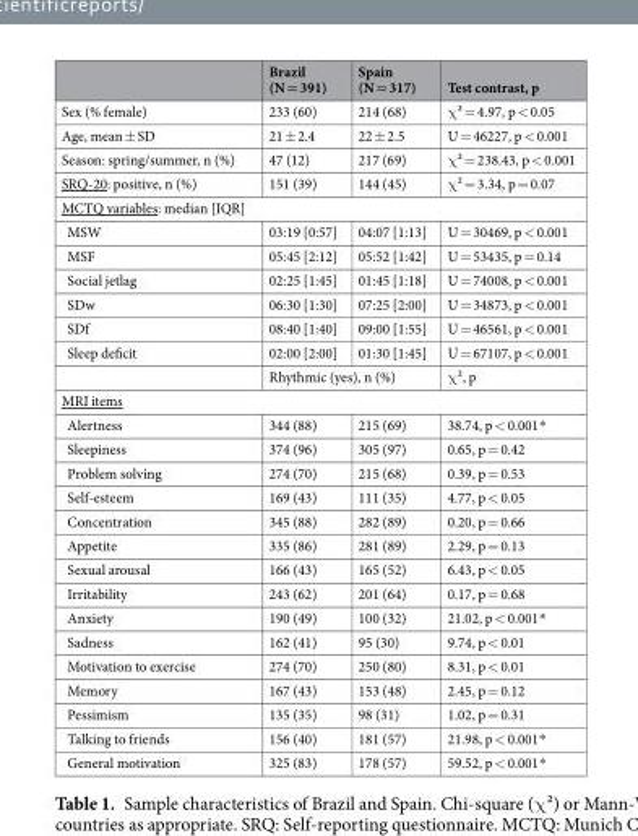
<table><thead><tr><td></td><td>Brazil (N = 391)</td><td>Spain (N = 317)</td><td>Test contrast, p</td></tr></thead><tbody><tr><td>Sex (% female)</td><td>233 (60)</td><td>214 (68)</td><td>χ² = 4.97, p &lt; 0.05</td></tr><tr><td>Age, mean ± SD</td><td>21 ± 2.4</td><td>22 ± 2.5</td><td>U = 46227, p &lt; 0.001</td></tr><tr><td>Season: spring/summer, n (%)</td><td>47 (12)</td><td>217 (69)</td><td>χ² = 238.43, p &lt; 0.001</td></tr><tr><td>SRQ-20: positive, n (%)</td><td>151 (39)</td><td>144 (45)</td><td>χ² = 3.34, p = 0.07</td></tr><tr><td colspan="4">MCTQ variables: median [IQR]</td></tr><tr><td>MSW</td><td>03:19 [0:57]</td><td>04:07 [1:13]</td><td>U = 30469, p &lt; 0.001</td></tr><tr><td>MSF</td><td>05:45 [2:12]</td><td>05:52 [1:42]</td><td>U = 53435, p = 0.14</td></tr><tr><td>Social jetlag</td><td>02:25 [1:45]</td><td>01:45 [1:18]</td><td>U = 74008, p &lt; 0.001</td></tr><tr><td>SDw</td><td>06:30 [1:30]</td><td>07:25 [2:00]</td><td>U = 34873, p &lt; 0.001</td></tr><tr><td>SDf</td><td>08:40 [1:40]</td><td>09:00 [1:55]</td><td>U = 46561, p &lt; 0.001</td></tr><tr><td rowspan="2">Sleep deficit</td><td>02:00 [2:00]</td><td>01:30 [1:45]</td><td>U = 67107, p &lt; 0.001</td></tr><tr><td colspan="2">Rhythmic (yes), n (%)</td><td>χ², p</td></tr><tr><td colspan="4">MRI items</td></tr><tr><td>Alertness</td><td>344 (88)</td><td>215 (69)</td><td>38.74, p &lt; 0.001*</td></tr><tr><td>Sleepiness</td><td>374 (96)</td><td>305 (97)</td><td>0.65, p = 0.42</td></tr><tr><td>Problem solving</td><td>274 (70)</td><td>215 (68)</td><td>0.39, p = 0.53</td></tr><tr><td>Self-esteem</td><td>169 (43)</td><td>111 (35)</td><td>4.77, p &lt; 0.05</td></tr><tr><td>Concentration</td><td>345 (88)</td><td>282 (89)</td><td>0.20, p = 0.66</td></tr><tr><td>Appetite</td><td>335 (86)</td><td>281 (89)</td><td>2.29, p = 0.13</td></tr><tr><td>Sexual arousal</td><td>166 (43)</td><td>165 (52)</td><td>6.43, p &lt; 0.05</td></tr><tr><td>Irritability</td><td>243 (62)</td><td>201 (64)</td><td>0.17, p = 0.68</td></tr><tr><td>Anxiety</td><td>190 (49)</td><td>100 (32)</td><td>21.02, p &lt; 0.001*</td></tr><tr><td>Sadness</td><td>162 (41)</td><td>95 (30)</td><td>9.74, p &lt; 0.01</td></tr><tr><td>Motivation to exercise</td><td>274 (70)</td><td>250 (80)</td><td>8.31, p &lt; 0.01</td></tr><tr><td>Memory</td><td>167 (43)</td><td>153 (48)</td><td>2.45, p = 0.12</td></tr><tr><td>Pessimism</td><td>135 (35)</td><td>98 (31)</td><td>1.02, p = 0.31</td></tr><tr><td>Talking to friends</td><td>156 (40)</td><td>181 (57)</td><td>21.98, p &lt; 0.001*</td></tr><tr><td>General motivation</td><td>325 (83)</td><td>178 (57)</td><td>59.52, p &lt; 0.001*</td></tr></tbody></table>